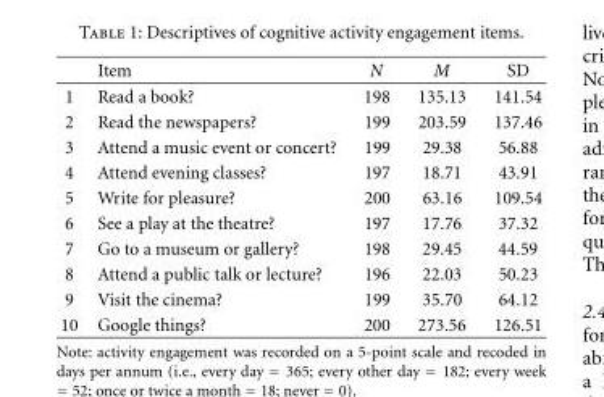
<table><thead><tr><td></td><td>Item</td><td>N</td><td>M</td><td>SD</td></tr></thead><tbody><tr><td>1</td><td>Read a book?</td><td>198</td><td>135.13</td><td>141.54</td></tr><tr><td>2</td><td>Read the newspapers?</td><td>199</td><td>203.59</td><td>137.46</td></tr><tr><td>3</td><td>Attend a music event or concert?</td><td>199</td><td>29.38</td><td>56.88</td></tr><tr><td>4</td><td>Attend evening classes?</td><td>197</td><td>18.71</td><td>43.91</td></tr><tr><td>5</td><td>Write for pleasure?</td><td>200</td><td>63.16</td><td>109.54</td></tr><tr><td>6</td><td>See a play at the theatre?</td><td>197</td><td>17.76</td><td>37.32</td></tr><tr><td>7</td><td>Go to a museum or gallery?</td><td>198</td><td>29.45</td><td>44.59</td></tr><tr><td>8</td><td>Attend a public talk or lecture?</td><td>196</td><td>22.03</td><td>50.23</td></tr><tr><td>9</td><td>Visit the cinema?</td><td>199</td><td>35.70</td><td>64.12</td></tr><tr><td>10</td><td>Google things?</td><td>200</td><td>273.56</td><td>126.51</td></tr></tbody></table>